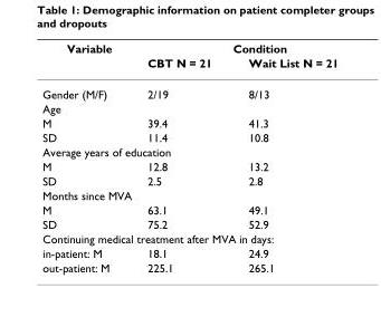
<table><thead><tr><td rowspan="2">Variable</td><td colspan="2">Condition</td></tr><tr><td>CBT N = 21</td><td>Wait List N = 21</td></tr></thead><tbody><tr><td>Gender (M/F)</td><td>2/19</td><td>8/13</td></tr><tr><td colspan="3">Age</td></tr><tr><td>M</td><td>39.4</td><td>41.3</td></tr><tr><td>SD</td><td>11.4</td><td>10.8</td></tr><tr><td colspan="3">Average years of education</td></tr><tr><td>M</td><td>12.8</td><td>13.2</td></tr><tr><td>SD</td><td>2.5</td><td>2.8</td></tr><tr><td colspan="3">Months since MVA</td></tr><tr><td>M</td><td>63.1</td><td>49.1</td></tr><tr><td>SD</td><td>75.2</td><td>52.9</td></tr><tr><td colspan="3">Continuing medical treatment after MVA in days:</td></tr><tr><td>in-patient: M</td><td>18.1</td><td>24.9</td></tr><tr><td>out-patient: M</td><td>225.1</td><td>265.1</td></tr></tbody></table>